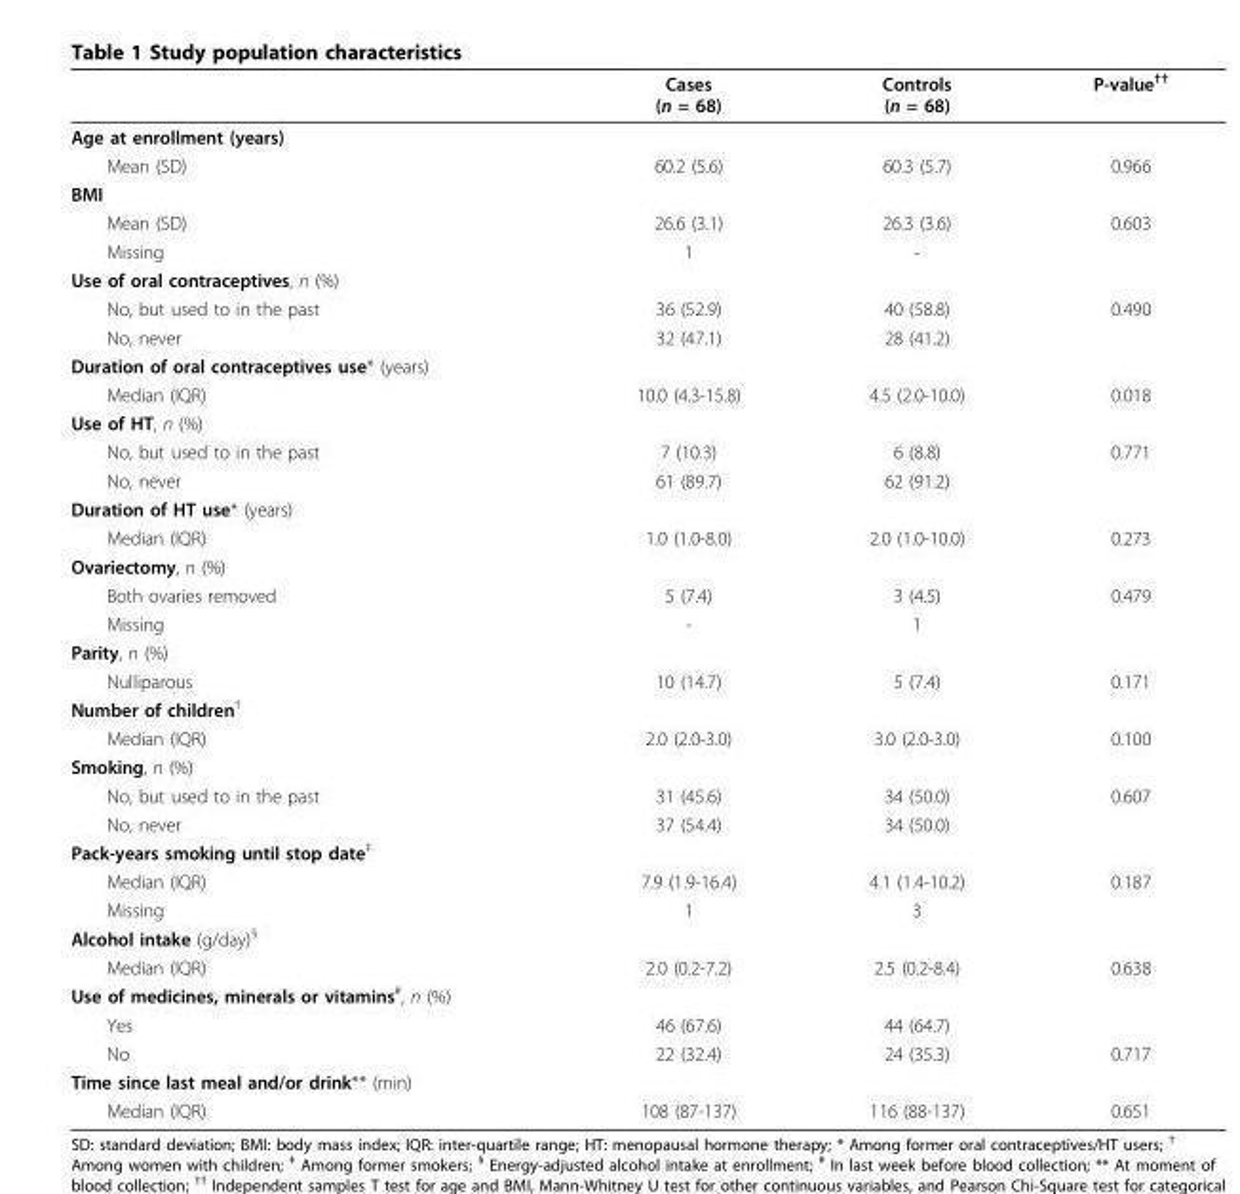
<table><thead><tr><td></td><td>Cases (n = 68)</td><td>Controls (n = 68)</td><td>P-value<sup>††</sup></td></tr></thead><tbody><tr><td colspan="4">Age at enrollment (years)</td></tr><tr><td>Mean (SD)</td><td>60.2 (5.6)</td><td>60.3 (5.7)</td><td>0.966</td></tr><tr><td colspan="4">BMI</td></tr><tr><td>Mean (SD)</td><td>26.6 (3.1)</td><td>26.3 (3.6)</td><td>0.603</td></tr><tr><td>Missing</td><td>1</td><td>-</td><td></td></tr><tr><td colspan="4">Use of oral contraceptives, n (%)</td></tr><tr><td>No, but used to in the past</td><td>36 (52.9)</td><td>40 (58.8)</td><td>0.490</td></tr><tr><td>No, never</td><td>32 (47.1)</td><td>28 (41.2)</td><td></td></tr><tr><td colspan="4">Duration of oral contraceptives use* (years)</td></tr><tr><td>Median (IQR)</td><td>10.0 (4.3-15.8)</td><td>4.5 (2.0-10.0)</td><td>0.018</td></tr><tr><td colspan="4">Use of HT, n (%)</td></tr><tr><td>No, but used to in the past</td><td>7 (10.3)</td><td>6 (8.8)</td><td>0.771</td></tr><tr><td>No, never</td><td>61 (89.7)</td><td>62 (91.2)</td><td></td></tr><tr><td colspan="4">Duration of HT use* (years)</td></tr><tr><td>Median (IQR)</td><td>1.0 (1.0-8.0)</td><td>2.0 (1.0-10.0)</td><td>0.273</td></tr><tr><td colspan="4">Ovariectomy, n (%)</td></tr><tr><td>Both ovaries removed</td><td>5 (7.4)</td><td>3 (4.5)</td><td>0.479</td></tr><tr><td>Missing</td><td>-</td><td>1</td><td></td></tr><tr><td colspan="4">Parity, n (%)</td></tr><tr><td>Nulliparous</td><td>10 (14.7)</td><td>5 (7.4)</td><td>0.171</td></tr><tr><td colspan="4">Number of children<sup>†</sup></td></tr><tr><td>Median (IQR)</td><td>2.0 (2.0-3.0)</td><td>3.0 (2.0-3.0)</td><td>0.100</td></tr><tr><td colspan="4">Smoking, n (%)</td></tr><tr><td>No, but used to in the past</td><td>31 (45.6)</td><td>34 (50.0)</td><td>0.607</td></tr><tr><td>No, never</td><td>37 (54.4)</td><td>34 (50.0)</td><td></td></tr><tr><td colspan="4">Pack-years smoking until stop date<sup>‡</sup></td></tr><tr><td>Median (IQR)</td><td>7.9 (1.9-16.4)</td><td>4.1 (1.4-10.2)</td><td>0.187</td></tr><tr><td>Missing</td><td>1</td><td>3</td><td></td></tr><tr><td colspan="4">Alcohol intake (g/day)<sup>§</sup></td></tr><tr><td>Median (IQR)</td><td>2.0 (0.2-7.2)</td><td>2.5 (0.2-8.4)</td><td>0.638</td></tr><tr><td colspan="4">Use of medicines, minerals or vitamins<sup>#</sup>, n (%)</td></tr><tr><td>Yes</td><td>46 (67.6)</td><td>44 (64.7)</td><td></td></tr><tr><td>No</td><td>22 (32.4)</td><td>24 (35.3)</td><td>0.717</td></tr><tr><td colspan="4">Time since last meal and/or drink** (min)</td></tr><tr><td>Median (IQR)</td><td>108 (87-137)</td><td>116 (88-137)</td><td>0.651</td></tr></tbody></table>